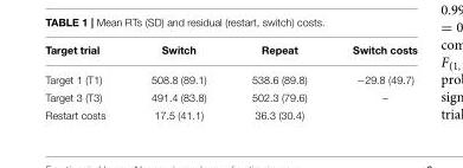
<table><thead><tr><td>Target trial</td><td>Switch</td><td>Repeat</td><td>Switch costs</td></tr></thead><tbody><tr><td>Target 1 (T1)</td><td>508.8 (89.1)</td><td>538.6 (89.8)</td><td>−29.8 (49.7)</td></tr><tr><td>Target 3 (T3)</td><td>491.4 (83.8)</td><td>502.3 (79.6)</td><td>–</td></tr><tr><td>Restart costs</td><td>17.5 (41.1)</td><td>36.3 (30.4)</td><td></td></tr></tbody></table>